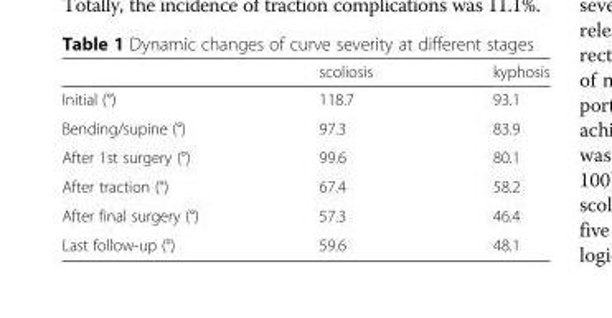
<table><thead><tr><td></td><td>scoliosis</td><td>kyphosis</td></tr></thead><tbody><tr><td>Initial (°)</td><td>118.7</td><td>93.1</td></tr><tr><td>Bending/supine (°)</td><td>97.3</td><td>83.9</td></tr><tr><td>After 1st surgery (°)</td><td>99.6</td><td>80.1</td></tr><tr><td>After traction (°)</td><td>67.4</td><td>58.2</td></tr><tr><td>After final surgery (°)</td><td>57.3</td><td>46.4</td></tr><tr><td>Last follow-up (°)</td><td>59.6</td><td>48.1</td></tr></tbody></table>